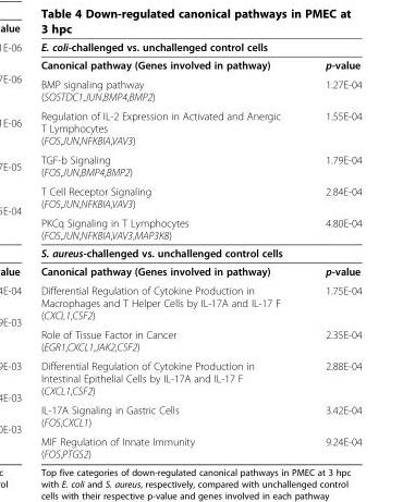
<table><thead><tr><td>E. coli-challenged vs. unchallenged control cells</td><td></td></tr></thead><tbody><tr><td>Canonical pathway (Genes involved in pathway)</td><td>p-value</td></tr><tr><td>BMP signaling pathway (SOSTDC1,JUN,BMP4,BMP2)</td><td>1.27E-04</td></tr><tr><td>Regulation of IL-2 Expression in Activated and Anergic T Lymphocytes (FOS,JUN,NFKBIA,VAV3)</td><td>1.55E-04</td></tr><tr><td>TGF-b Signaling (FOS,JUN,BMP4,BMP2)</td><td>1.79E-04</td></tr><tr><td>T Cell Receptor Signaling (FOS,JUN,NFKBIA,VAV3)</td><td>2.84E-04</td></tr><tr><td>PKCq Signaling in T Lymphocytes (FOS,JUN,NFKBIA,VAV3,MAP3K8)</td><td>4.80E-04</td></tr><tr><td colspan="2">S. aureus-challenged vs. unchallenged control cells</td></tr><tr><td>Canonical pathway (Genes involved in pathway)</td><td>p-value</td></tr><tr><td>Differential Regulation of Cytokine Production in Macrophages and T Helper Cells by IL-17A and IL-17 F (CXCL1,CSF2)</td><td>1.75E-04</td></tr><tr><td>Role of Tissue Factor in Cancer (EGR1,CXCL1,JAK2,CSF2)</td><td>2.35E-04</td></tr><tr><td>Differential Regulation of Cytokine Production in Intestinal Epithelial Cells by IL-17A and IL-17 F (CXCL1,CSF2)</td><td>2.88E-04</td></tr><tr><td>IL-17A Signaling in Gastric Cells (FOS,CXCL1)</td><td>3.42E-04</td></tr><tr><td>MIF Regulation of Innate Immunity (FOS,PTGS2)</td><td>9.24E-04</td></tr></tbody></table>